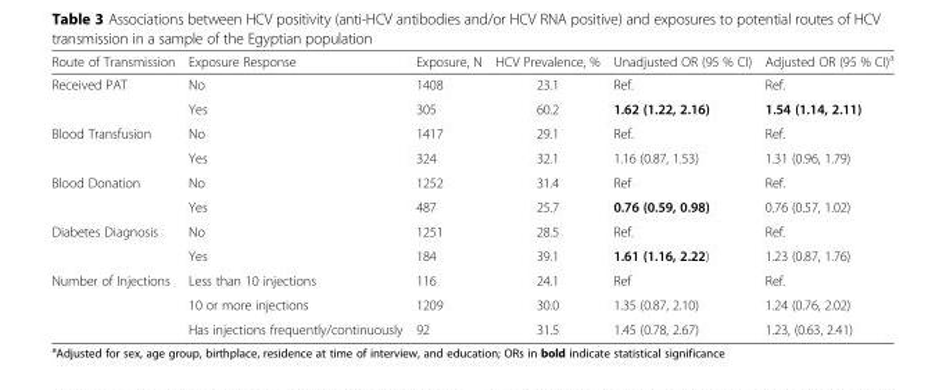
<table><thead><tr><td>Route of Transmission</td><td>Exposure Response</td><td>Exposure, N</td><td>HCV Prevalence, %</td><td>Unadjusted OR (95 % CI)</td><td>Adjusted OR (95 % CI)<sup>a</sup></td></tr></thead><tbody><tr><td rowspan="2">Received PAT</td><td>No</td><td>1408</td><td>23.1</td><td>Ref.</td><td>Ref.</td></tr><tr><td>Yes</td><td>305</td><td>60.2</td><td>1.62 (1.22, 2.16)</td><td>1.54 (1.14, 2.11)</td></tr><tr><td rowspan="2">Blood Transfusion</td><td>No</td><td>1417</td><td>29.1</td><td>Ref.</td><td>Ref.</td></tr><tr><td>Yes</td><td>324</td><td>32.1</td><td>1.16 (0.87, 1.53)</td><td>1.31 (0.96, 1.79)</td></tr><tr><td rowspan="2">Blood Donation</td><td>No</td><td>1252</td><td>31.4</td><td>Ref</td><td>Ref.</td></tr><tr><td>Yes</td><td>487</td><td>25.7</td><td>0.76 (0.59, 0.98)</td><td>0.76 (0.57, 1.02)</td></tr><tr><td rowspan="2">Diabetes Diagnosis</td><td>No</td><td>1251</td><td>28.5</td><td>Ref.</td><td>Ref.</td></tr><tr><td>Yes</td><td>184</td><td>39.1</td><td>1.61 (1.16, 2.22)</td><td>1.23 (0.87, 1.76)</td></tr><tr><td rowspan="3">Number of Injections</td><td>Less than 10 injections</td><td>116</td><td>24.1</td><td>Ref</td><td>Ref.</td></tr><tr><td>10 or more injections</td><td>1209</td><td>30.0</td><td>1.35 (0.87, 2.10)</td><td>1.24 (0.76, 2.02)</td></tr><tr><td>Has injections frequently/continuously</td><td>92</td><td>31.5</td><td>1.45 (0.78, 2.67)</td><td>1.23, (0.63, 2.41)</td></tr></tbody></table>